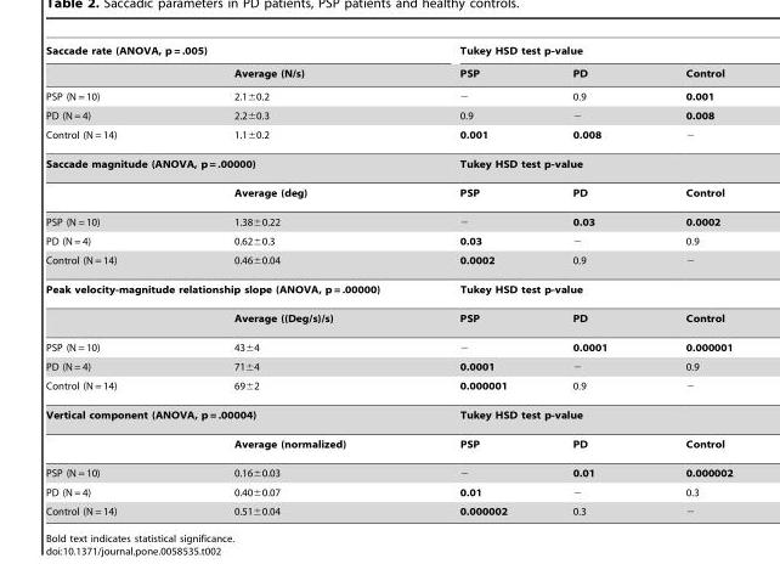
<table><thead><tr><td colspan="2">Saccade rate (ANOVA, p = .005)</td><td colspan="3">Tukey HSD test p-value</td></tr><tr><td></td><td>Average (N/s)</td><td>PSP</td><td>PD</td><td>Control</td></tr></thead><tbody><tr><td>PSP (N = 10)</td><td>2.1±0.2</td><td>−</td><td>0.9</td><td>0.001</td></tr><tr><td>PD (N = 4)</td><td>2.2±0.3</td><td>0.9</td><td>−</td><td>0.008</td></tr><tr><td>Control (N = 14)</td><td>1.1±0.2</td><td>0.001</td><td>0.008</td><td>−</td></tr><tr><td colspan="2">Saccade magnitude (ANOVA, p = .00000)</td><td colspan="3">Tukey HSD test p-value</td></tr><tr><td></td><td>Average (deg)</td><td>PSP</td><td>PD</td><td>Control</td></tr><tr><td>PSP (N = 10)</td><td>1.38±0.22</td><td>−</td><td>0.03</td><td>0.0002</td></tr><tr><td>PD (N = 4)</td><td>0.62±0.3</td><td>0.03</td><td>−</td><td>0.9</td></tr><tr><td>Control (N = 14)</td><td>0.46±0.04</td><td>0.0002</td><td>0.9</td><td>−</td></tr><tr><td colspan="2">Peak velocity-magnitude relationship slope (ANOVA, p = .00000)</td><td colspan="3">Tukey HSD test p-value</td></tr><tr><td></td><td>Average ((Deg/s)/s)</td><td>PSP</td><td>PD</td><td>Control</td></tr><tr><td>PSP (N = 10)</td><td>43±4</td><td>−</td><td>0.0001</td><td>0.000001</td></tr><tr><td>PD (N = 4)</td><td>71±4</td><td>0.0001</td><td>−</td><td>0.9</td></tr><tr><td>Control (N = 14)</td><td>69±2</td><td>0.000001</td><td>0.9</td><td>−</td></tr><tr><td colspan="2">Vertical component (ANOVA, p = .00004)</td><td colspan="3">Tukey HSD test p-value</td></tr><tr><td></td><td>Average (normalized)</td><td>PSP</td><td>PD</td><td>Control</td></tr><tr><td>PSP (N = 10)</td><td>0.16±0.03</td><td>−</td><td>0.01</td><td>0.000002</td></tr><tr><td>PD (N = 4)</td><td>0.40±0.07</td><td>0.01</td><td>−</td><td>0.3</td></tr><tr><td>Control (N = 14)</td><td>0.51±0.04</td><td>0.000002</td><td>0.3</td><td>−</td></tr></tbody></table>